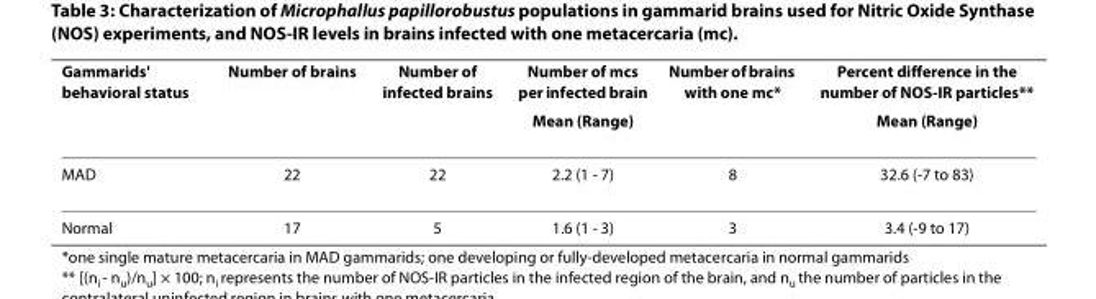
<table><thead><tr><td rowspan="2">Gammarids&#x27; behavioral status</td><td rowspan="2">Number of brains</td><td rowspan="2">Number of infected brains</td><td rowspan="2">Number of mcs per infected brain Mean (Range)</td><td rowspan="2">Number of brains with one mc*</td><td rowspan="2">Percent difference in the number of NOS-IR particles** Mean (Range)</td></tr><tr></tr></thead><tbody><tr><td>MAD</td><td>22</td><td>22</td><td>2.2 (1 - 7)</td><td>8</td><td>32.6 (-7 to 83)</td></tr><tr><td>Normal</td><td>17</td><td>5</td><td>1.6 (1 - 3)</td><td>3</td><td>3.4 (-9 to 17)</td></tr></tbody></table>